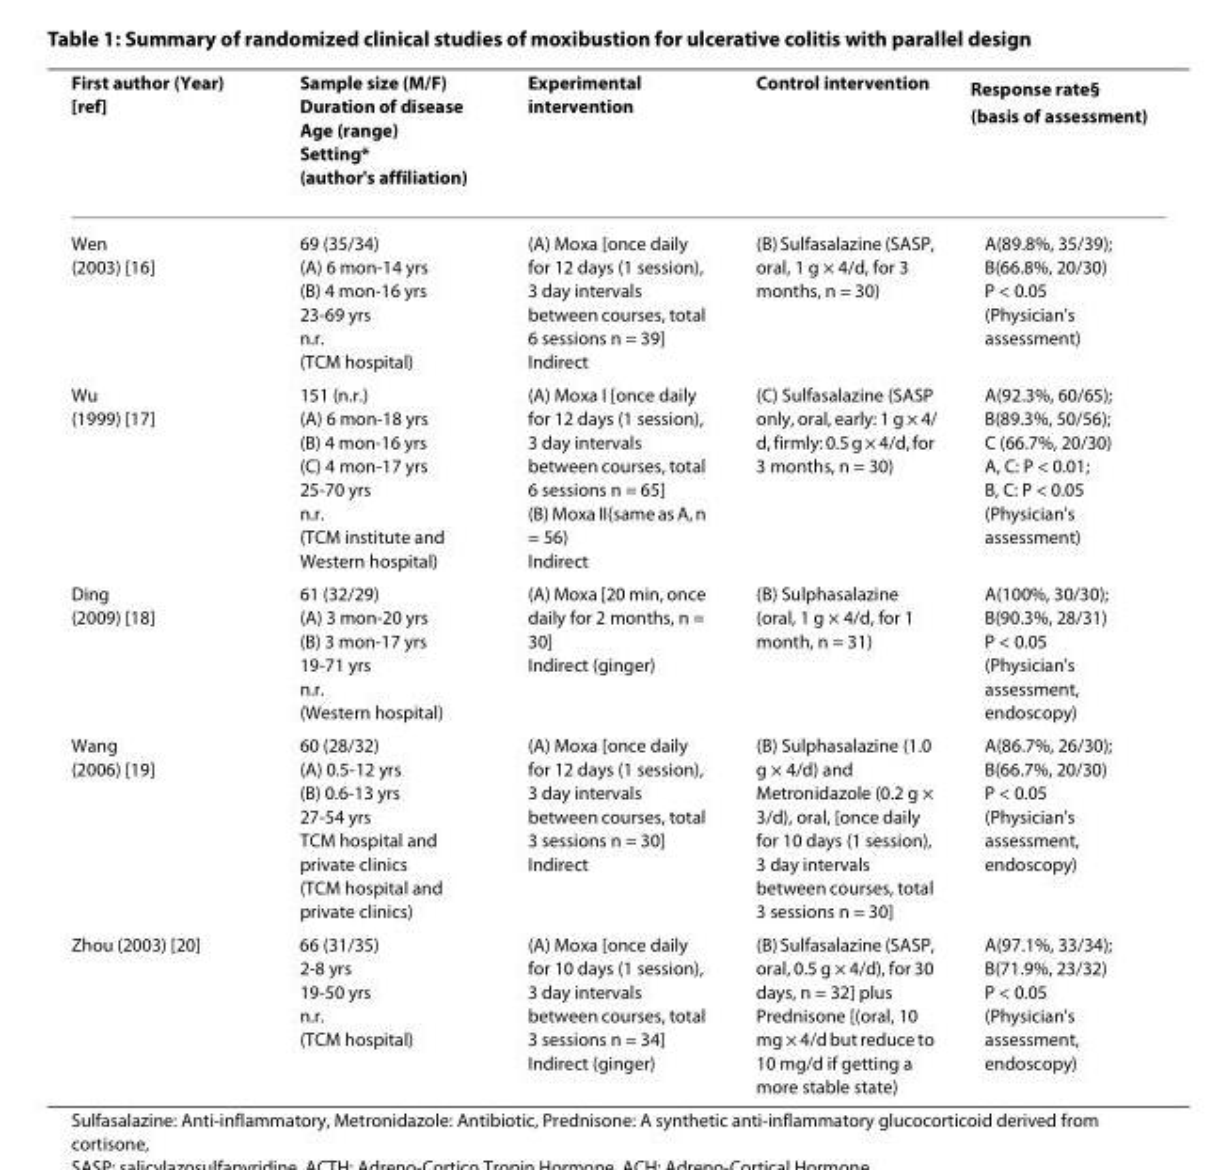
<table><thead><tr><td>First author (Year) [ref]</td><td>Sample size (M/F) Duration of disease Age (range) Setting* (author&#x27;s affiliation)</td><td>Experimental intervention</td><td>Control intervention</td><td>Response rate<sup>§</sup> (basis of assessment)</td></tr></thead><tbody><tr><td>Wen (2003) [16]</td><td>69 (35/34) (A) 6 mon-14 yrs (B) 4 mon-16 yrs 23-69 yrs n.r. (TCM hospital)</td><td>(A) Moxa [once daily for 12 days (1 session), 3 day intervals between courses, total 6 sessions n = 39] Indirect</td><td>(B) Sulfasalazine (SASP, oral, 1 g × 4/d, for 3 months, n = 30)</td><td>A(89.8%, 35/39); B(66.8%, 20/30) P &lt; 0.05 (Physician&#x27;s assessment)</td></tr><tr><td>Wu (1999) [17]</td><td>151 (n.r.) (A) 6 mon-18 yrs (B) 4 mon-16 yrs (C) 4 mon-17 yrs 25-70 yrs n.r. (TCM institute and Western hospital)</td><td>(A) Moxa I [once daily for 12 days (1 session), 3 day intervals between courses, total 6 sessions n = 65] (B) Moxa II(same as A, n = 56) Indirect</td><td>(C) Sulfasalazine (SASP only, oral, early: 1 g × 4/ d, firmly: 0.5 g × 4/d, for 3 months, n = 30)</td><td>A(92.3%, 60/65); B(89.3%, 50/56); C (66.7%, 20/30) A, C: P &lt; 0.01; B, C: P &lt; 0.05 (Physician&#x27;s assessment)</td></tr><tr><td>Ding (2009) [18]</td><td>61 (32/29) (A) 3 mon-20 yrs (B) 3 mon-17 yrs 19-71 yrs n.r. (Western hospital)</td><td>(A) Moxa [20 min, once daily for 2 months, n = 30] Indirect (ginger)</td><td>(B) Sulphasalazine (oral, 1 g × 4/d, for 1 month, n = 31)</td><td>A(100%, 30/30); B(90.3%, 28/31) P &lt; 0.05 (Physician&#x27;s assessment, endoscopy)</td></tr><tr><td>Wang (2006) [19]</td><td>60 (28/32) (A) 0.5-12 yrs (B) 0.6-13 yrs 27-54 yrs TCM hospital and private clinics (TCM hospital and private clinics)</td><td>(A) Moxa [once daily for 12 days (1 session), 3 day intervals between courses, total 3 sessions n = 30] Indirect</td><td>(B) Sulphasalazine (1.0 g × 4/d) and Metronidazole (0.2 g × 3/d), oral, [once daily for 10 days (1 session), 3 day intervals between courses, total 3 sessions n = 30]</td><td>A(86.7%, 26/30); B(66.7%, 20/30) P &lt; 0.05 (Physician&#x27;s assessment, endoscopy)</td></tr><tr><td>Zhou (2003) [20]</td><td>66 (31/35) 2-8 yrs 19-50 yrs n.r. (TCM hospital)</td><td>(A) Moxa [once daily for 10 days (1 session), 3 day intervals between courses, total 3 sessions n = 34] Indirect (ginger)</td><td>(B) Sulfasalazine (SASP, oral, 0.5 g × 4/d), for 30 days, n = 32] plus Prednisone [(oral, 10 mg × 4/d but reduce to 10 mg/d if getting a more stable state)</td><td>A(97.1%, 33/34); B(71.9%, 23/32) P &lt; 0.05 (Physician&#x27;s assessment, endoscopy)</td></tr></tbody></table>